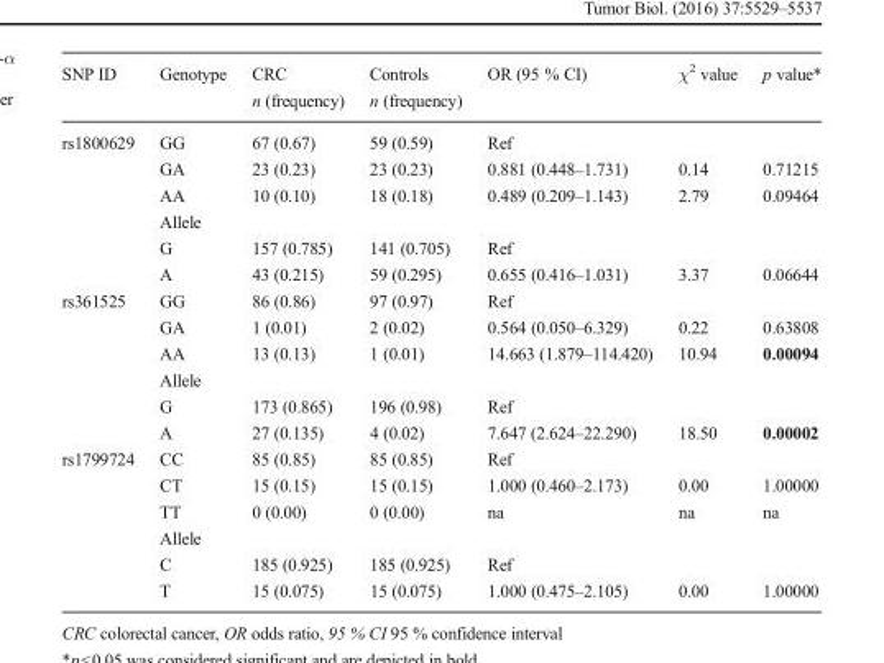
<table><thead><tr><td>SNP ID</td><td>Genotype</td><td>CRC n (frequency)</td><td>Controls n (frequency)</td><td>OR (95 % CI)</td><td>χ<sup>2</sup> value</td><td>p value*</td></tr></thead><tbody><tr><td rowspan="6">rs1800629</td><td>GG</td><td>67 (0.67)</td><td>59 (0.59)</td><td>Ref</td><td></td><td></td></tr><tr><td>GA</td><td>23 (0.23)</td><td>23 (0.23)</td><td>0.881 (0.448–1.731)</td><td>0.14</td><td>0.71215</td></tr><tr><td>AA</td><td>10 (0.10)</td><td>18 (0.18)</td><td>0.489 (0.209–1.143)</td><td>2.79</td><td>0.09464</td></tr><tr><td colspan="6">Allele</td></tr><tr><td>G</td><td>157 (0.785)</td><td>141 (0.705)</td><td>Ref</td><td></td><td></td></tr><tr><td>A</td><td>43 (0.215)</td><td>59 (0.295)</td><td>0.655 (0.416–1.031)</td><td>3.37</td><td>0.06644</td></tr><tr><td rowspan="6">rs361525</td><td>GG</td><td>86 (0.86)</td><td>97 (0.97)</td><td>Ref</td><td></td><td></td></tr><tr><td>GA</td><td>1 (0.01)</td><td>2 (0.02)</td><td>0.564 (0.050–6.329)</td><td>0.22</td><td>0.63808</td></tr><tr><td>AA</td><td>13 (0.13)</td><td>1 (0.01)</td><td>14.663 (1.879–114.420)</td><td>10.94</td><td>0.00094</td></tr><tr><td colspan="6">Allele</td></tr><tr><td>G</td><td>173 (0.865)</td><td>196 (0.98)</td><td>Ref</td><td></td><td></td></tr><tr><td>A</td><td>27 (0.135)</td><td>4 (0.02)</td><td>7.647 (2.624–22.290)</td><td>18.50</td><td>0.00002</td></tr><tr><td rowspan="6">rs1799724</td><td>CC</td><td>85 (0.85)</td><td>85 (0.85)</td><td>Ref</td><td></td><td></td></tr><tr><td>CT</td><td>15 (0.15)</td><td>15 (0.15)</td><td>1.000 (0.460–2.173)</td><td>0.00</td><td>1.00000</td></tr><tr><td>TT</td><td>0 (0.00)</td><td>0 (0.00)</td><td>na</td><td>na</td><td>na</td></tr><tr><td colspan="6">Allele</td></tr><tr><td>C</td><td>185 (0.925)</td><td>185 (0.925)</td><td>Ref</td><td></td><td></td></tr><tr><td>T</td><td>15 (0.075)</td><td>15 (0.075)</td><td>1.000 (0.475–2.105)</td><td>0.00</td><td>1.00000</td></tr></tbody></table>